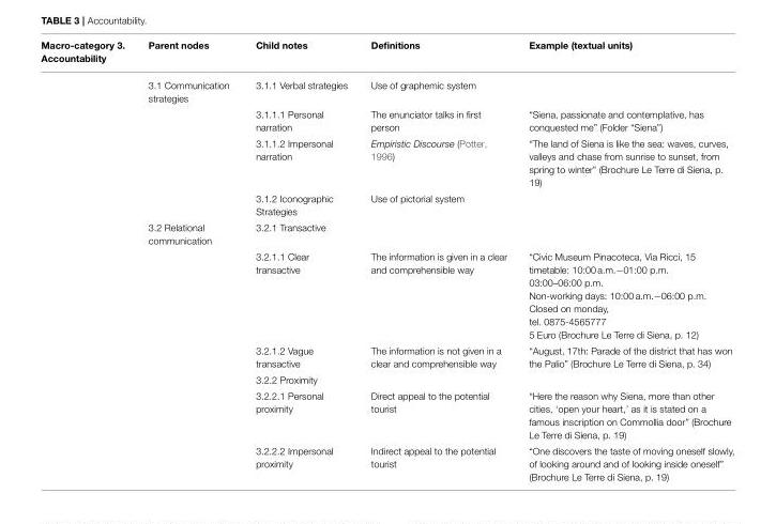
<table><thead><tr><td>Macro-category 3. Accountability</td><td>Parent nodes</td><td>Child notes</td><td>Definitions</td><td>Example (textual units)</td></tr></thead><tbody><tr><td></td><td>3.1 Communication strategies</td><td>3.1.1 Verbal strategies</td><td>Use of graphemic system</td><td></td></tr><tr><td></td><td></td><td>3.1.1.1 Personal narration</td><td>The enunciator talks in first person</td><td>“Siena, passionate and contemplative, has conquested me” (Folder “Siena”)</td></tr><tr><td></td><td></td><td>3.1.1.2 Impersonal narration</td><td>Empiristic Discourse (Potter, 1996)</td><td>“The land of Siena is like the sea: waves, curves, valleys and chase from sunrise to sunset, from spring to winter” (Brochure Le Terre di Siena, p. 19)</td></tr><tr><td></td><td></td><td>3.1.2 Iconographic Strategies</td><td>Use of pictorial system</td><td></td></tr><tr><td></td><td>3.2 Relational communication</td><td>3.2.1 Transactive</td><td></td><td></td></tr><tr><td></td><td></td><td>3.2.1.1 Clear transactive</td><td>The information is given in a clear and comprehensible way</td><td>“Civic Museum Pinacoteca, Via Ricci, 15 timetable: 10:00 a.m.−01:00 p.m. 03:00–06:00 p.m. Non-working days: 10:00 a.m.−06:00 p.m. Closed on monday, tel. 0875-4565777 5 Euro (Brochure Le Terre di Siena, p. 12)</td></tr><tr><td></td><td></td><td>3.2.1.2 Vague transactive</td><td>The information is not given in a clear and comprehensible way</td><td>“August, 17th: Parade of the district that has won the Palio” (Brochure Le Terre di Siena, p. 34)</td></tr><tr><td></td><td></td><td>3.2.2 Proximity</td><td></td><td></td></tr><tr><td></td><td></td><td>3.2.2.1 Personal proximity</td><td>Direct appeal to the potential tourist</td><td>“Here the reason why Siena, more than other cities, ‘open your heart,’ as it is stated on a famous inscription on Commollia door” (Brochure Le Terre di Siena, p. 19)</td></tr><tr><td></td><td></td><td>3.2.2.2 Impersonal proximity</td><td>Indirect appeal to the potential tourist</td><td>“One discovers the taste of moving oneself slowly, of looking around and of looking inside oneself” (Brochure Le Terre di Siena, p. 19)</td></tr></tbody></table>